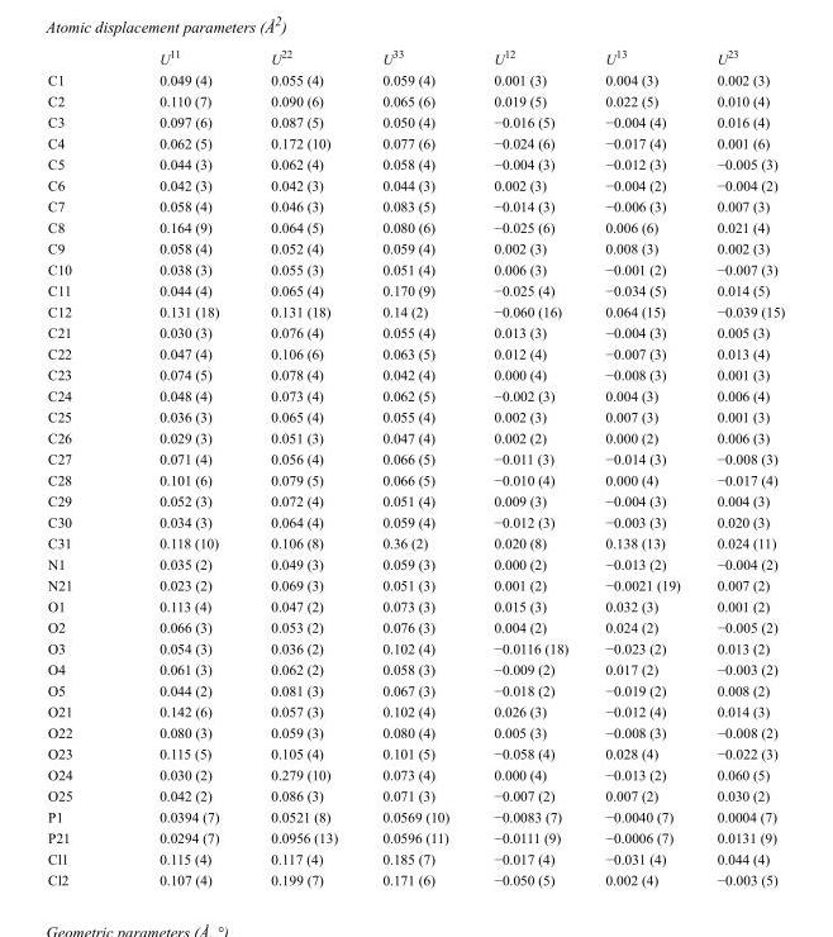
<table><thead><tr><td></td><td>U<sup>11</sup></td><td>U<sup>22</sup></td><td>U<sup>33</sup></td><td>U<sup>12</sup></td><td>U<sup>13</sup></td><td>U<sup>23</sup></td></tr></thead><tbody><tr><td>C1</td><td>0.049 (4)</td><td>0.055 (4)</td><td>0.059 (4)</td><td>0.001 (3)</td><td>0.004 (3)</td><td>0.002 (3)</td></tr><tr><td>C2</td><td>0.110 (7)</td><td>0.090 (6)</td><td>0.065 (6)</td><td>0.019 (5)</td><td>0.022 (5)</td><td>0.010 (4)</td></tr><tr><td>C3</td><td>0.097 (6)</td><td>0.087 (5)</td><td>0.050 (4)</td><td>−0.016 (5)</td><td>−0.004 (4)</td><td>0.016 (4)</td></tr><tr><td>C4</td><td>0.062 (5)</td><td>0.172 (10)</td><td>0.077 (6)</td><td>−0.024 (6)</td><td>−0.017 (4)</td><td>0.001 (6)</td></tr><tr><td>C5</td><td>0.044 (3)</td><td>0.062 (4)</td><td>0.058 (4)</td><td>−0.004 (3)</td><td>−0.012 (3)</td><td>−0.005 (3)</td></tr><tr><td>C6</td><td>0.042 (3)</td><td>0.042 (3)</td><td>0.044 (3)</td><td>0.002 (3)</td><td>−0.004 (2)</td><td>−0.004 (2)</td></tr><tr><td>C7</td><td>0.058 (4)</td><td>0.046 (3)</td><td>0.083 (5)</td><td>−0.014 (3)</td><td>−0.006 (3)</td><td>0.007 (3)</td></tr><tr><td>C8</td><td>0.164 (9)</td><td>0.064 (5)</td><td>0.080 (6)</td><td>−0.025 (6)</td><td>0.006 (6)</td><td>0.021 (4)</td></tr><tr><td>C9</td><td>0.058 (4)</td><td>0.052 (4)</td><td>0.059 (4)</td><td>0.002 (3)</td><td>0.008 (3)</td><td>0.002 (3)</td></tr><tr><td>C10</td><td>0.038 (3)</td><td>0.055 (3)</td><td>0.051 (4)</td><td>0.006 (3)</td><td>−0.001 (2)</td><td>−0.007 (3)</td></tr><tr><td>C11</td><td>0.044 (4)</td><td>0.065 (4)</td><td>0.170 (9)</td><td>−0.025 (4)</td><td>−0.034 (5)</td><td>0.014 (5)</td></tr><tr><td>C12</td><td>0.131 (18)</td><td>0.131 (18)</td><td>0.14 (2)</td><td>−0.060 (16)</td><td>0.064 (15)</td><td>−0.039 (15)</td></tr><tr><td>C21</td><td>0.030 (3)</td><td>0.076 (4)</td><td>0.055 (4)</td><td>0.013 (3)</td><td>−0.004 (3)</td><td>0.005 (3)</td></tr><tr><td>C22</td><td>0.047 (4)</td><td>0.106 (6)</td><td>0.063 (5)</td><td>0.012 (4)</td><td>−0.007 (3)</td><td>0.013 (4)</td></tr><tr><td>C23</td><td>0.074 (5)</td><td>0.078 (4)</td><td>0.042 (4)</td><td>0.000 (4)</td><td>−0.008 (3)</td><td>0.001 (3)</td></tr><tr><td>C24</td><td>0.048 (4)</td><td>0.073 (4)</td><td>0.062 (5)</td><td>−0.002 (3)</td><td>0.004 (3)</td><td>0.006 (4)</td></tr><tr><td>C25</td><td>0.036 (3)</td><td>0.065 (4)</td><td>0.055 (4)</td><td>0.002 (3)</td><td>0.007 (3)</td><td>0.001 (3)</td></tr><tr><td>C26</td><td>0.029 (3)</td><td>0.051 (3)</td><td>0.047 (4)</td><td>0.002 (2)</td><td>0.000 (2)</td><td>0.006 (3)</td></tr><tr><td>C27</td><td>0.071 (4)</td><td>0.056 (4)</td><td>0.066 (5)</td><td>−0.011 (3)</td><td>−0.014 (3)</td><td>−0.008 (3)</td></tr><tr><td>C28</td><td>0.101 (6)</td><td>0.079 (5)</td><td>0.066 (5)</td><td>−0.010 (4)</td><td>0.000 (4)</td><td>−0.017 (4)</td></tr><tr><td>C29</td><td>0.052 (3)</td><td>0.072 (4)</td><td>0.051 (4)</td><td>0.009 (3)</td><td>−0.004 (3)</td><td>0.004 (3)</td></tr><tr><td>C30</td><td>0.034 (3)</td><td>0.064 (4)</td><td>0.059 (4)</td><td>−0.012 (3)</td><td>−0.003 (3)</td><td>0.020 (3)</td></tr><tr><td>C31</td><td>0.118 (10)</td><td>0.106 (8)</td><td>0.36 (2)</td><td>0.020 (8)</td><td>0.138 (13)</td><td>0.024 (11)</td></tr><tr><td>N1</td><td>0.035 (2)</td><td>0.049 (3)</td><td>0.059 (3)</td><td>0.000 (2)</td><td>−0.013 (2)</td><td>−0.004 (2)</td></tr><tr><td>N21</td><td>0.023 (2)</td><td>0.069 (3)</td><td>0.051 (3)</td><td>0.001 (2)</td><td>−0.0021 (19)</td><td>0.007 (2)</td></tr><tr><td>O1</td><td>0.113 (4)</td><td>0.047 (2)</td><td>0.073 (3)</td><td>0.015 (3)</td><td>0.032 (3)</td><td>0.001 (2)</td></tr><tr><td>O2</td><td>0.066 (3)</td><td>0.053 (2)</td><td>0.076 (3)</td><td>0.004 (2)</td><td>0.024 (2)</td><td>−0.005 (2)</td></tr><tr><td>O3</td><td>0.054 (3)</td><td>0.036 (2)</td><td>0.102 (4)</td><td>−0.0116 (18)</td><td>−0.023 (2)</td><td>0.013 (2)</td></tr><tr><td>O4</td><td>0.061 (3)</td><td>0.062 (2)</td><td>0.058 (3)</td><td>−0.009 (2)</td><td>0.017 (2)</td><td>−0.003 (2)</td></tr><tr><td>O5</td><td>0.044 (2)</td><td>0.081 (3)</td><td>0.067 (3)</td><td>−0.018 (2)</td><td>−0.019 (2)</td><td>0.008 (2)</td></tr><tr><td>O21</td><td>0.142 (6)</td><td>0.057 (3)</td><td>0.102 (4)</td><td>0.026 (3)</td><td>−0.012 (4)</td><td>0.014 (3)</td></tr><tr><td>O22</td><td>0.080 (3)</td><td>0.059 (3)</td><td>0.080 (4)</td><td>0.005 (3)</td><td>−0.008 (3)</td><td>−0.008 (2)</td></tr><tr><td>O23</td><td>0.115 (5)</td><td>0.105 (4)</td><td>0.101 (5)</td><td>−0.058 (4)</td><td>0.028 (4)</td><td>−0.022 (3)</td></tr><tr><td>O24</td><td>0.030 (2)</td><td>0.279 (10)</td><td>0.073 (4)</td><td>0.000 (4)</td><td>−0.013 (2)</td><td>0.060 (5)</td></tr><tr><td>O25</td><td>0.042 (2)</td><td>0.086 (3)</td><td>0.071 (3)</td><td>−0.007 (2)</td><td>0.007 (2)</td><td>0.030 (2)</td></tr><tr><td>P1</td><td>0.0394 (7)</td><td>0.0521 (8)</td><td>0.0569 (10)</td><td>−0.0083 (7)</td><td>−0.0040 (7)</td><td>0.0004 (7)</td></tr><tr><td>P21</td><td>0.0294 (7)</td><td>0.0956 (13)</td><td>0.0596 (11)</td><td>−0.0111 (9)</td><td>−0.0006 (7)</td><td>0.0131 (9)</td></tr><tr><td>Cl1</td><td>0.115 (4)</td><td>0.117 (4)</td><td>0.185 (7)</td><td>−0.017 (4)</td><td>−0.031 (4)</td><td>0.044 (4)</td></tr><tr><td>Cl2</td><td>0.107 (4)</td><td>0.199 (7)</td><td>0.171 (6)</td><td>−0.050 (5)</td><td>0.002 (4)</td><td>−0.003 (5)</td></tr></tbody></table>